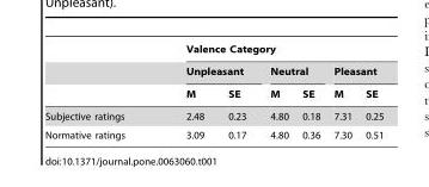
<table><thead><tr><td rowspan="3"></td><td colspan="6">Valence Category</td></tr><tr><td colspan="2">Unpleasant</td><td colspan="2">Neutral</td><td colspan="2">Pleasant</td></tr><tr><td>M</td><td>SE</td><td>M</td><td>SE</td><td>M</td><td>SE</td></tr></thead><tbody><tr><td>Subjective ratings</td><td>2.48</td><td>0.23</td><td>4.80</td><td>0.18</td><td>7.31</td><td>0.25</td></tr><tr><td>Normative ratings</td><td>3.09</td><td>0.17</td><td>4.80</td><td>0.36</td><td>7.30</td><td>0.51</td></tr></tbody></table>